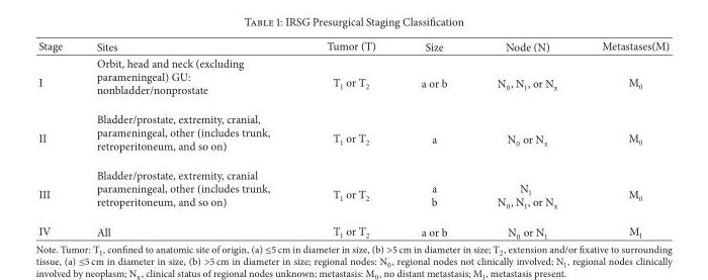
<table><thead><tr><td>Stage</td><td>Sites</td><td>Tumor (T)</td><td>Size</td><td>Node (N)</td><td>Metastases(M)</td></tr></thead><tbody><tr><td>I</td><td>Orbit, head and neck (excluding parameningeal) GU: nonbladder/nonprostate</td><td>T<sub>1</sub> or T<sub>2</sub></td><td>a or b</td><td>N<sub>0</sub>, N<sub>1</sub>, or N<sub>x</sub></td><td>M<sub>0</sub></td></tr><tr><td>II</td><td>Bladder/prostate, extremity, cranial, parameningeal, other (includes trunk, retroperitoneum, and so on)</td><td>T<sub>1</sub> or T<sub>2</sub></td><td>a</td><td>N<sub>0</sub> or N<sub>x</sub></td><td>M<sub>0</sub></td></tr><tr><td>III</td><td>Bladder/prostate, extremity, cranial parameningeal, other (includes trunk, retroperitoneum, and so on)</td><td>T<sub>1</sub> or T<sub>2</sub></td><td>a b</td><td>N<sub>1</sub> N<sub>0</sub>, N<sub>1</sub>, or N<sub>x</sub></td><td>M<sub>0</sub></td></tr><tr><td>IV</td><td>All</td><td>T<sub>1</sub> or T<sub>2</sub></td><td>a or b</td><td>N<sub>0</sub> or N<sub>1</sub></td><td>M<sub>1</sub></td></tr></tbody></table>